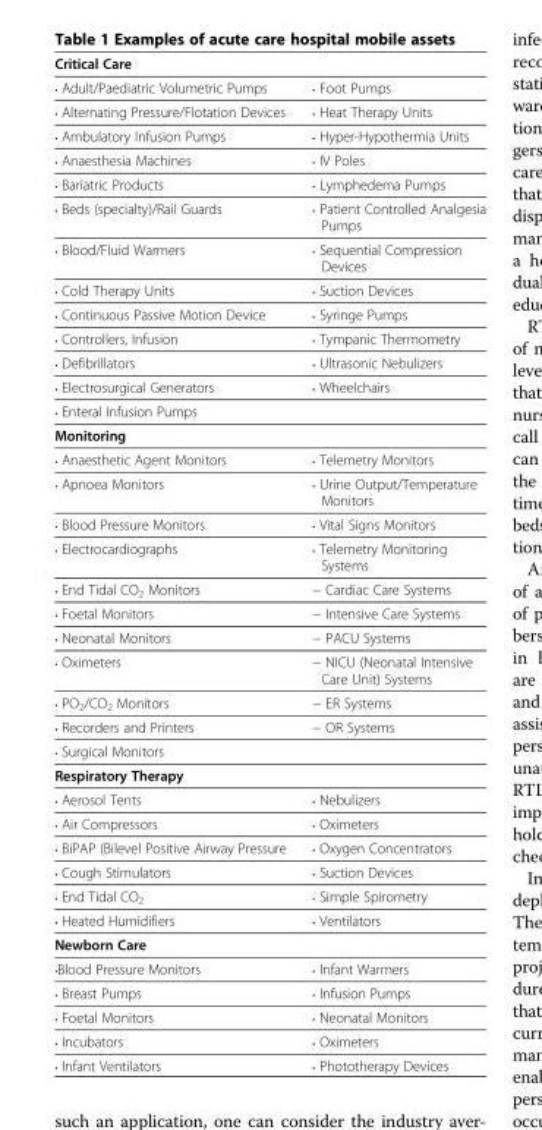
<table><thead><tr><td colspan="2">Critical Care</td></tr><tr><td>• Adult/Paediatric Volumetric Pumps</td><td>• Foot Pumps</td></tr></thead><tbody><tr><td>• Alternating Pressure/Flotation Devices</td><td>• Heat Therapy Units</td></tr><tr><td>• Ambulatory Infusion Pumps</td><td>• Hyper-Hypothermia Units</td></tr><tr><td>• Anaesthesia Machines</td><td>• IV Poles</td></tr><tr><td>• Bariatric Products</td><td>• Lymphedema Pumps</td></tr><tr><td>• Beds (specialty)/Rail Guards</td><td>• Patient Controlled Analgesia Pumps</td></tr><tr><td>• Blood/Fluid Warmers</td><td>• Sequential Compression Devices</td></tr><tr><td>• Cold Therapy Units</td><td>• Suction Devices</td></tr><tr><td>• Continuous Passive Motion Device</td><td>• Syringe Pumps</td></tr><tr><td>• Controllers, Infusion</td><td>• Tympanic Thermometry</td></tr><tr><td>• Defibrillators</td><td>• Ultrasonic Nebulizers</td></tr><tr><td>• Electrosurgical Generators</td><td>• Wheelchairs</td></tr><tr><td colspan="2">• Enteral Infusion Pumps</td></tr><tr><td colspan="2">Monitoring</td></tr><tr><td>• Anaesthetic Agent Monitors</td><td>• Telemetry Monitors</td></tr><tr><td>• Apnoea Monitors</td><td>• Urine Output/Temperature Monitors</td></tr><tr><td>• Blood Pressure Monitors</td><td>• Vital Signs Monitors</td></tr><tr><td>• Electrocardiographs</td><td>• Telemetry Monitoring Systems</td></tr><tr><td>• End Tidal CO2 Monitors</td><td>− Cardiac Care Systems</td></tr><tr><td>• Foetal Monitors</td><td>− Intensive Care Systems</td></tr><tr><td>• Neonatal Monitors</td><td>− PACU Systems</td></tr><tr><td>• Oximeters</td><td>− NICU (Neonatal Intensive Care Unit) Systems</td></tr><tr><td>• PO2/CO2 Monitors</td><td>− ER Systems</td></tr><tr><td>• Recorders and Printers</td><td>− OR Systems</td></tr><tr><td colspan="2">• Surgical Monitors</td></tr><tr><td colspan="2">Respiratory Therapy</td></tr><tr><td>• Aerosol Tents</td><td>• Nebulizers</td></tr><tr><td>• Air Compressors</td><td>• Oximeters</td></tr><tr><td>• BiPAP (Bilevel Positive Airway Pressure</td><td>• Oxygen Concentrators</td></tr><tr><td>• Cough Stimulators</td><td>• Suction Devices</td></tr><tr><td>• End Tidal CO2</td><td>• Simple Spirometry</td></tr><tr><td>• Heated Humidifiers</td><td>• Ventilators</td></tr><tr><td colspan="2">Newborn Care</td></tr><tr><td>•Blood Pressure Monitors</td><td>• Infant Warmers</td></tr><tr><td>• Breast Pumps</td><td>• Infusion Pumps</td></tr><tr><td>• Foetal Monitors</td><td>• Neonatal Monitors</td></tr><tr><td>• Incubators</td><td>• Oximeters</td></tr><tr><td>• Infant Ventilators</td><td>• Phototherapy Devices</td></tr></tbody></table>